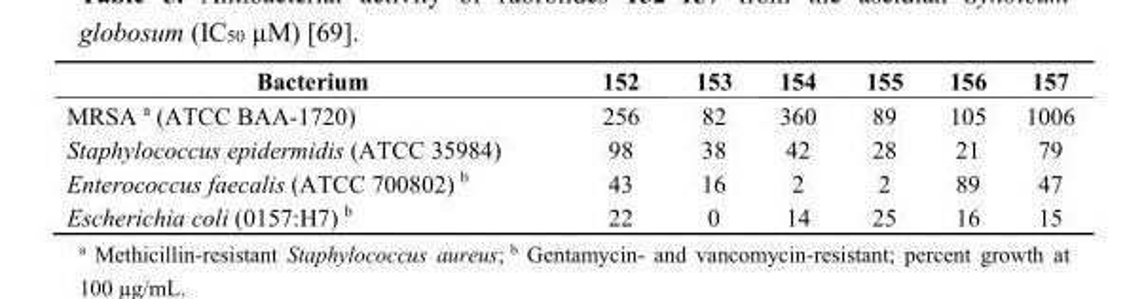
<table><thead><tr><td>Bacterium</td><td>152</td><td>153</td><td>154</td><td>155</td><td>156</td><td>157</td></tr></thead><tbody><tr><td>MRSA <sup>a</sup> (ATCC BAA-1720)</td><td>256</td><td>82</td><td>360</td><td>89</td><td>105</td><td>1006</td></tr><tr><td>Staphylococcus epidermidis (ATCC 35984)</td><td>98</td><td>38</td><td>42</td><td>28</td><td>21</td><td>79</td></tr><tr><td>Enterococcus faecalis (ATCC 700802) <sup>b</sup></td><td>43</td><td>16</td><td>2</td><td>2</td><td>89</td><td>47</td></tr><tr><td>Escherichia coli (0157:H7) <sup>b</sup></td><td>22</td><td>0</td><td>14</td><td>25</td><td>16</td><td>15</td></tr></tbody></table>